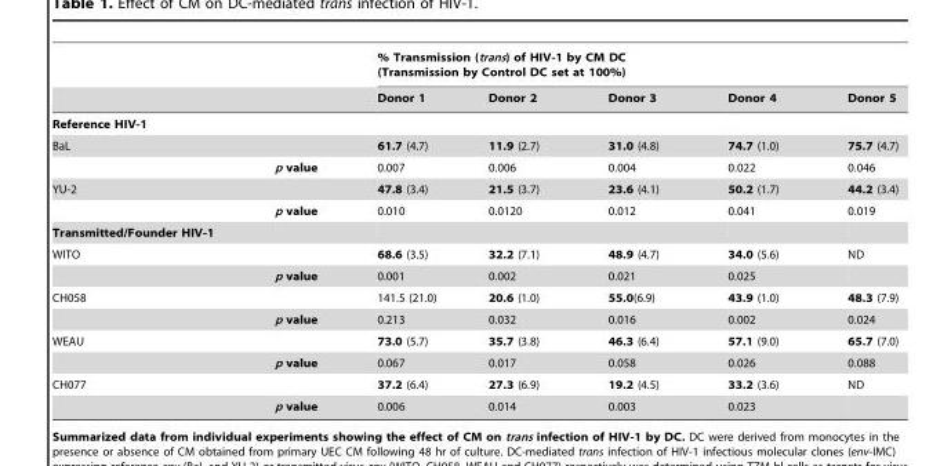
<table><thead><tr><td rowspan="2"></td><td rowspan="2"></td><td colspan="5">% Transmission (trans) of HIV-1 by CM DC (Transmission by Control DC set at 100%)</td></tr><tr><td>Donor 1</td><td>Donor 2</td><td>Donor 3</td><td>Donor 4</td><td>Donor 5</td></tr></thead><tbody><tr><td colspan="7">Reference HIV-1</td></tr><tr><td rowspan="2">BaL</td><td></td><td>61.7 (4.7)</td><td>11.9 (2.7)</td><td>31.0 (4.8)</td><td>74.7 (1.0)</td><td>75.7 (4.7)</td></tr><tr><td>p value</td><td>0.007</td><td>0.006</td><td>0.004</td><td>0.022</td><td>0.046</td></tr><tr><td rowspan="2">YU-2</td><td></td><td>47.8 (3.4)</td><td>21.5 (3.7)</td><td>23.6 (4.1)</td><td>50.2 (1.7)</td><td>44.2 (3.4)</td></tr><tr><td>p value</td><td>0.010</td><td>0.0120</td><td>0.012</td><td>0.041</td><td>0.019</td></tr><tr><td colspan="7">Transmitted/Founder HIV-1</td></tr><tr><td rowspan="2">WITO</td><td></td><td>68.6 (3.5)</td><td>32.2 (7.1)</td><td>48.9 (4.7)</td><td>34.0 (5.6)</td><td>ND</td></tr><tr><td>p value</td><td>0.001</td><td>0.002</td><td>0.021</td><td>0.025</td><td></td></tr><tr><td rowspan="2">CH058</td><td></td><td>141.5 (21.0)</td><td>20.6 (1.0)</td><td>55.0(6.9)</td><td>43.9 (1.0)</td><td>48.3 (7.9)</td></tr><tr><td>p value</td><td>0.213</td><td>0.032</td><td>0.016</td><td>0.002</td><td>0.024</td></tr><tr><td rowspan="2">WEAU</td><td></td><td>73.0 (5.7)</td><td>35.7 (3.8)</td><td>46.3 (6.4)</td><td>57.1 (9.0)</td><td>65.7 (7.0)</td></tr><tr><td>p value</td><td>0.067</td><td>0.017</td><td>0.058</td><td>0.026</td><td>0.088</td></tr><tr><td rowspan="2">CH077</td><td></td><td>37.2 (6.4)</td><td>27.3 (6.9)</td><td>19.2 (4.5)</td><td>33.2 (3.6)</td><td>ND</td></tr><tr><td>p value</td><td>0.006</td><td>0.014</td><td>0.003</td><td>0.023</td><td></td></tr></tbody></table>